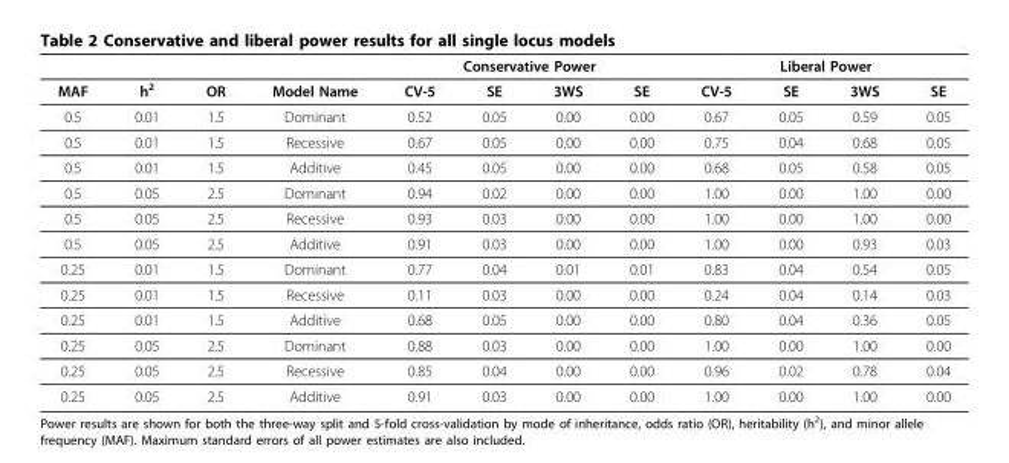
<table><thead><tr><td rowspan="2">MAF</td><td rowspan="2">h<sup>2</sup></td><td rowspan="2">OR</td><td rowspan="2">Model Name</td><td colspan="4">Conservative Power</td><td colspan="4">Liberal Power</td></tr><tr><td>CV-5</td><td>SE</td><td>3WS</td><td>SE</td><td>CV-5</td><td>SE</td><td>3WS</td><td>SE</td></tr></thead><tbody><tr><td>0.5</td><td>0.01</td><td>1.5</td><td>Dominant</td><td>0.52</td><td>0.05</td><td>0.00</td><td>0.00</td><td>0.67</td><td>0.05</td><td>0.59</td><td>0.05</td></tr><tr><td>0.5</td><td>0.01</td><td>1.5</td><td>Recessive</td><td>0.67</td><td>0.05</td><td>0.00</td><td>0.00</td><td>0.75</td><td>0.04</td><td>0.68</td><td>0.05</td></tr><tr><td>0.5</td><td>0.01</td><td>1.5</td><td>Additive</td><td>0.45</td><td>0.05</td><td>0.00</td><td>0.00</td><td>0.68</td><td>0.05</td><td>0.58</td><td>0.05</td></tr><tr><td>0.5</td><td>0.05</td><td>2.5</td><td>Dominant</td><td>0.94</td><td>0.02</td><td>0.00</td><td>0.00</td><td>1.00</td><td>0.00</td><td>1.00</td><td>0.00</td></tr><tr><td>0.5</td><td>0.05</td><td>2.5</td><td>Recessive</td><td>0.93</td><td>0.03</td><td>0.00</td><td>0.00</td><td>1.00</td><td>0.00</td><td>1.00</td><td>0.00</td></tr><tr><td>0.5</td><td>0.05</td><td>2.5</td><td>Additive</td><td>0.91</td><td>0.03</td><td>0.00</td><td>0.00</td><td>1.00</td><td>0.00</td><td>0.93</td><td>0.03</td></tr><tr><td>0.25</td><td>0.01</td><td>1.5</td><td>Dominant</td><td>0.77</td><td>0.04</td><td>0.01</td><td>0.01</td><td>0.83</td><td>0.04</td><td>0.54</td><td>0.05</td></tr><tr><td>0.25</td><td>0.01</td><td>1.5</td><td>Recessive</td><td>0.11</td><td>0.03</td><td>0.00</td><td>0.00</td><td>0.24</td><td>0.04</td><td>0.14</td><td>0.03</td></tr><tr><td>0.25</td><td>0.01</td><td>1.5</td><td>Additive</td><td>0.68</td><td>0.05</td><td>0.00</td><td>0.00</td><td>0.80</td><td>0.04</td><td>0.36</td><td>0.05</td></tr><tr><td>0.25</td><td>0.05</td><td>2.5</td><td>Dominant</td><td>0.88</td><td>0.03</td><td>0.00</td><td>0.00</td><td>1.00</td><td>0.00</td><td>1.00</td><td>0.00</td></tr><tr><td>0.25</td><td>0.05</td><td>2.5</td><td>Recessive</td><td>0.85</td><td>0.04</td><td>0.00</td><td>0.00</td><td>0.96</td><td>0.02</td><td>0.78</td><td>0.04</td></tr><tr><td>0.25</td><td>0.05</td><td>2.5</td><td>Additive</td><td>0.91</td><td>0.03</td><td>0.00</td><td>0.00</td><td>1.00</td><td>0.00</td><td>1.00</td><td>0.00</td></tr></tbody></table>